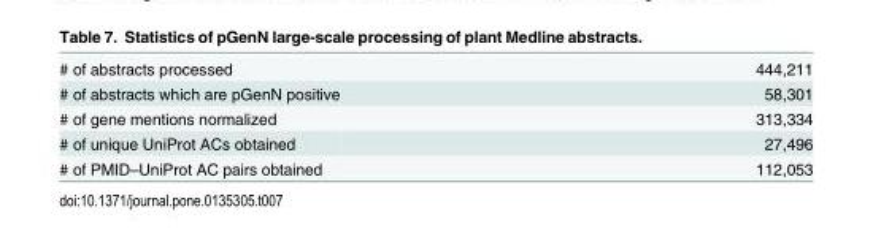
<table><tbody><tr><td># of abstracts processed</td><td>444,211</td></tr><tr><td># of abstracts which are pGenN positive</td><td>58,301</td></tr><tr><td># of gene mentions normalized</td><td>313,334</td></tr><tr><td># of unique UniProt ACs obtained</td><td>27,496</td></tr><tr><td># of PMID–UniProt AC pairs obtained</td><td>112,053</td></tr></tbody></table>